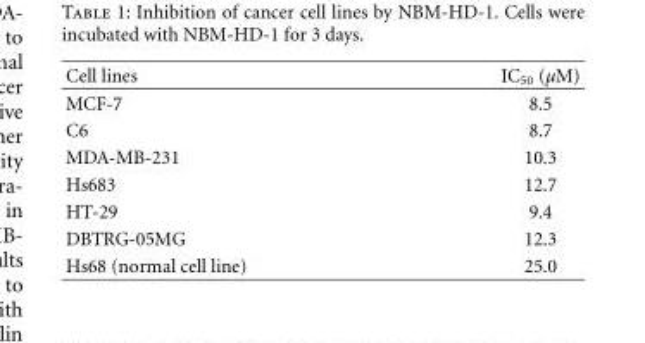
<table><thead><tr><td>Cell lines</td><td>IC<sub>50</sub> (μM)</td></tr></thead><tbody><tr><td>MCF-7</td><td>8.5</td></tr><tr><td>C6</td><td>8.7</td></tr><tr><td>MDA-MB-231</td><td>10.3</td></tr><tr><td>Hs683</td><td>12.7</td></tr><tr><td>HT-29</td><td>9.4</td></tr><tr><td>DBTRG-05MG</td><td>12.3</td></tr><tr><td>Hs68 (normal cell line)</td><td>25.0</td></tr></tbody></table>